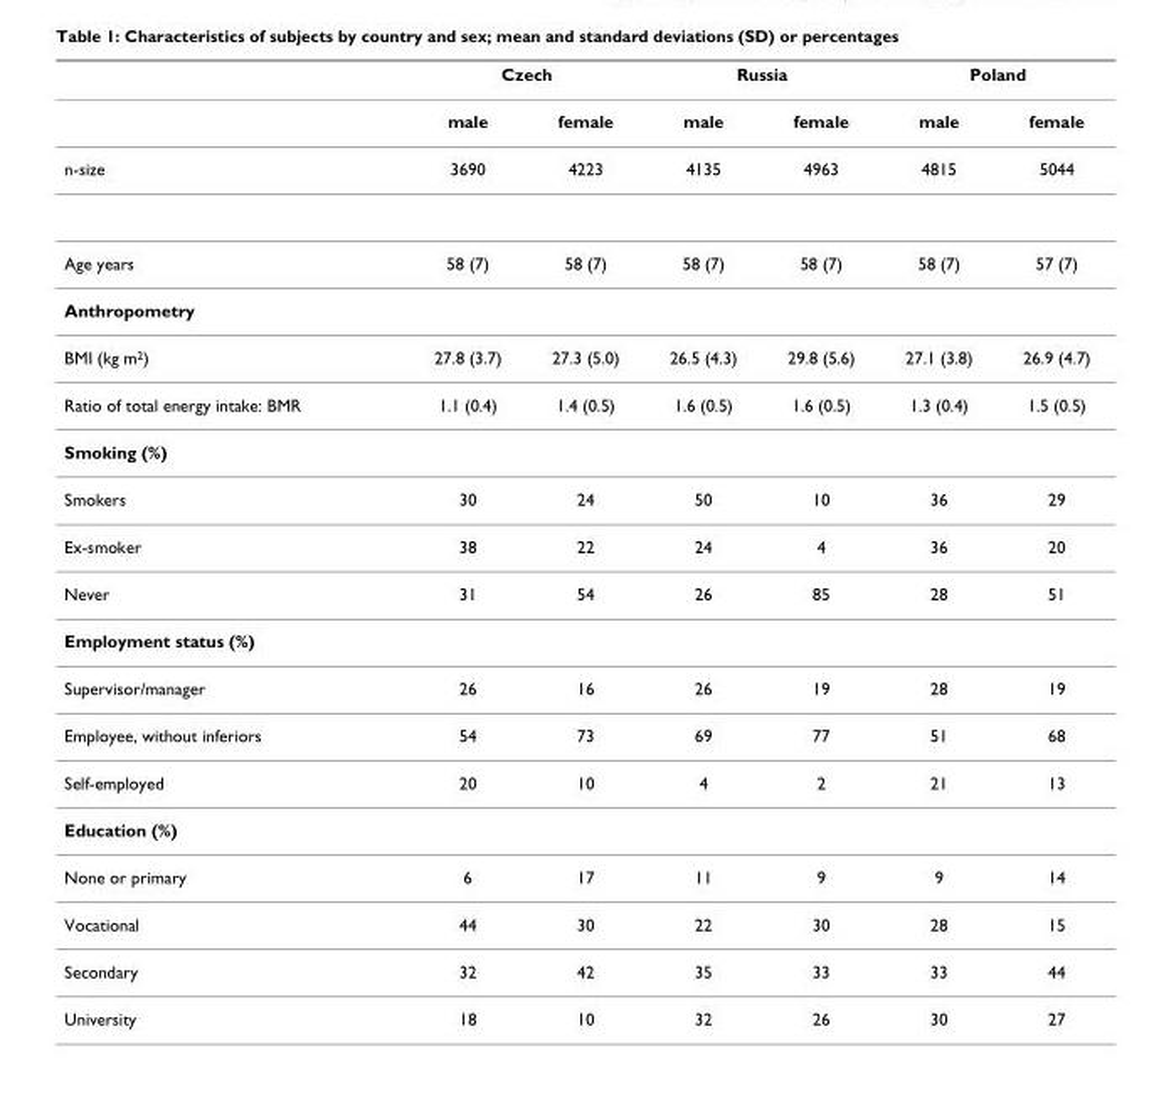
<table><thead><tr><td rowspan="2"></td><td colspan="2">Czech</td><td colspan="2">Russia</td><td colspan="2">Poland</td></tr><tr><td>male</td><td>female</td><td>male</td><td>female</td><td>male</td><td>female</td></tr></thead><tbody><tr><td>n-size</td><td>3690</td><td>4223</td><td>4135</td><td>4963</td><td>4815</td><td>5044</td></tr><tr><td>Age years</td><td>58 (7)</td><td>58 (7)</td><td>58 (7)</td><td>58 (7)</td><td>58 (7)</td><td>57 (7)</td></tr><tr><td colspan="7">Anthropometry</td></tr><tr><td>BMI (kg m2)</td><td>27.8 (3.7)</td><td>27.3 (5.0)</td><td>26.5 (4.3)</td><td>29.8 (5.6)</td><td>27.1 (3.8)</td><td>26.9 (4.7)</td></tr><tr><td>Ratio of total energy intake: BMR</td><td>1.1 (0.4)</td><td>1.4 (0.5)</td><td>1.6 (0.5)</td><td>1.6 (0.5)</td><td>1.3 (0.4)</td><td>1.5 (0.5)</td></tr><tr><td colspan="7">Smoking (%)</td></tr><tr><td>Smokers</td><td>30</td><td>24</td><td>50</td><td>10</td><td>36</td><td>29</td></tr><tr><td>Ex-smoker</td><td>38</td><td>22</td><td>24</td><td>4</td><td>36</td><td>20</td></tr><tr><td>Never</td><td>31</td><td>54</td><td>26</td><td>85</td><td>28</td><td>51</td></tr><tr><td colspan="7">Employment status (%)</td></tr><tr><td>Supervisor/manager</td><td>26</td><td>16</td><td>26</td><td>19</td><td>28</td><td>19</td></tr><tr><td>Employee, without inferiors</td><td>54</td><td>73</td><td>69</td><td>77</td><td>51</td><td>68</td></tr><tr><td>Self-employed</td><td>20</td><td>10</td><td>4</td><td>2</td><td>21</td><td>13</td></tr><tr><td colspan="7">Education (%)</td></tr><tr><td>None or primary</td><td>6</td><td>17</td><td>11</td><td>9</td><td>9</td><td>14</td></tr><tr><td>Vocational</td><td>44</td><td>30</td><td>22</td><td>30</td><td>28</td><td>15</td></tr><tr><td>Secondary</td><td>32</td><td>42</td><td>35</td><td>33</td><td>33</td><td>44</td></tr><tr><td>University</td><td>18</td><td>10</td><td>32</td><td>26</td><td>30</td><td>27</td></tr></tbody></table>